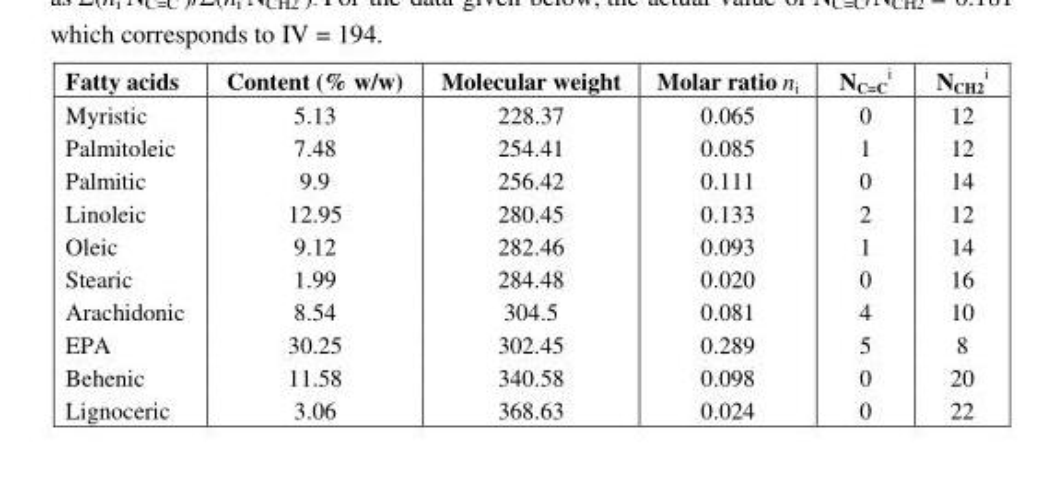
<table><thead><tr><td>Fatty acids</td><td>Content (% w/w)</td><td>Molecular weight</td><td>Molar ratio n<sub>i</sub></td><td>NC=C i</td><td>N<sub>CH2</sub> <sup>i</sup></td></tr></thead><tbody><tr><td>Myristic</td><td>5.13</td><td>228.37</td><td>0.065</td><td>0</td><td>12</td></tr><tr><td>Palmitoleic</td><td>7.48</td><td>254.41</td><td>0.085</td><td>1</td><td>12</td></tr><tr><td>Palmitic</td><td>9.9</td><td>256.42</td><td>0.111</td><td>0</td><td>14</td></tr><tr><td>Linoleic</td><td>12.95</td><td>280.45</td><td>0.133</td><td>2</td><td>12</td></tr><tr><td>Oleic</td><td>9.12</td><td>282.46</td><td>0.093</td><td>1</td><td>14</td></tr><tr><td>Stearic</td><td>1.99</td><td>284.48</td><td>0.020</td><td>0</td><td>16</td></tr><tr><td>Arachidonic</td><td>8.54</td><td>304.5</td><td>0.081</td><td>4</td><td>10</td></tr><tr><td>EPA</td><td>30.25</td><td>302.45</td><td>0.289</td><td>5</td><td>8</td></tr><tr><td>Behenic</td><td>11.58</td><td>340.58</td><td>0.098</td><td>0</td><td>20</td></tr><tr><td>Lignoceric</td><td>3.06</td><td>368.63</td><td>0.024</td><td>0</td><td>22</td></tr></tbody></table>